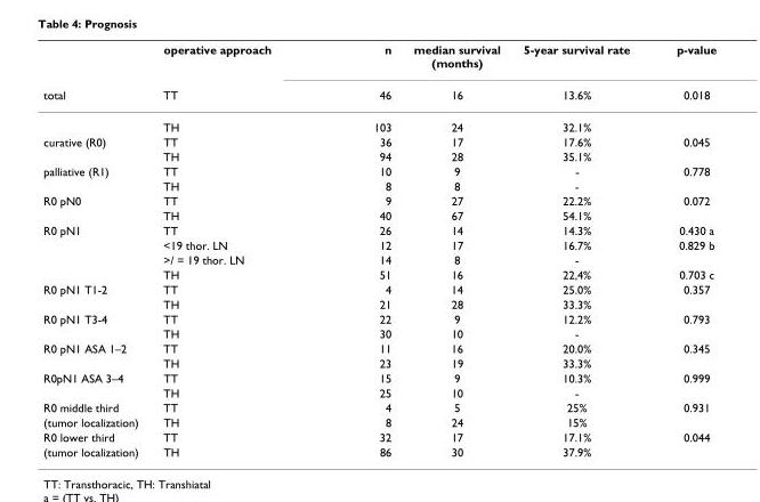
<table><thead><tr><td rowspan="2">total</td><td rowspan="2">operative approach TT</td><td rowspan="2">n 46</td><td rowspan="2">median survival (months) 16</td><td rowspan="2">5-year survival rate 13.6%</td><td rowspan="2">p-value 0.018</td></tr><tr></tr></thead><tbody><tr><td></td><td>TH</td><td>103</td><td>24</td><td>32.1%</td><td></td></tr><tr><td rowspan="2">curative (R0)</td><td>TT</td><td>36</td><td>17</td><td>17.6%</td><td>0.045</td></tr><tr><td>TH</td><td>94</td><td>28</td><td>35.1%</td><td></td></tr><tr><td rowspan="2">palliative (R1)</td><td>TT</td><td>10</td><td>9</td><td>-</td><td>0.778</td></tr><tr><td>TH</td><td>8</td><td>8</td><td>-</td><td></td></tr><tr><td rowspan="2">R0 pN0</td><td>TT</td><td>9</td><td>27</td><td>22.2%</td><td>0.072</td></tr><tr><td>TH</td><td>40</td><td>67</td><td>54.1%</td><td></td></tr><tr><td rowspan="4">R0 pN1</td><td>TT</td><td>26</td><td>14</td><td>14.3%</td><td>0.430 a</td></tr><tr><td>&lt;19 thor. LN</td><td>12</td><td>17</td><td>16.7%</td><td>0.829 b</td></tr><tr><td>&gt;/ = 19 thor. LN</td><td>14</td><td>8</td><td>-</td><td></td></tr><tr><td>TH</td><td>51</td><td>16</td><td>22,4%</td><td>0.703 c</td></tr><tr><td rowspan="2">R0 pN1 T1-2</td><td>TT</td><td>4</td><td>14</td><td>25.0%</td><td>0.357</td></tr><tr><td>TH</td><td>21</td><td>28</td><td>33.3%</td><td></td></tr><tr><td rowspan="2">R0 pN1 T3-4</td><td>TT</td><td>22</td><td>9</td><td>12.2%</td><td>0.793</td></tr><tr><td>TH</td><td>30</td><td>10</td><td>-</td><td></td></tr><tr><td rowspan="2">R0 pN1 ASA 1–2</td><td>TT</td><td>11</td><td>16</td><td>20.0%</td><td>0.345</td></tr><tr><td>TH</td><td>23</td><td>19</td><td>33.3%</td><td></td></tr><tr><td rowspan="2">R0pN1 ASA 3–4</td><td>TT</td><td>15</td><td>9</td><td>10.3%</td><td>0.999</td></tr><tr><td>TH</td><td>25</td><td>10</td><td>-</td><td></td></tr><tr><td>R0 middle third</td><td>TT</td><td>4</td><td>5</td><td>25%</td><td>0.931</td></tr><tr><td>(tumor localization)</td><td>TH</td><td>8</td><td>24</td><td>15%</td><td></td></tr><tr><td>R0 lower third</td><td>TT</td><td>32</td><td>17</td><td>17.1%</td><td>0.044</td></tr><tr><td>(tumor localization)</td><td>TH</td><td>86</td><td>30</td><td>37.9%</td><td></td></tr></tbody></table>